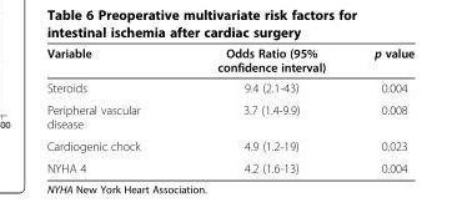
<table><thead><tr><td>Variable</td><td>Odds Ratio (95% confidence interval)</td><td>p value</td></tr></thead><tbody><tr><td>Steroids</td><td>9.4 (2.1-43)</td><td>0.004</td></tr><tr><td>Peripheral vascular disease</td><td>3.7 (1.4-9.9)</td><td>0.008</td></tr><tr><td>Cardiogenic chock</td><td>4.9 (1.2-19)</td><td>0.023</td></tr><tr><td>NYHA 4</td><td>4.2 (1.6-13)</td><td>0.004</td></tr></tbody></table>